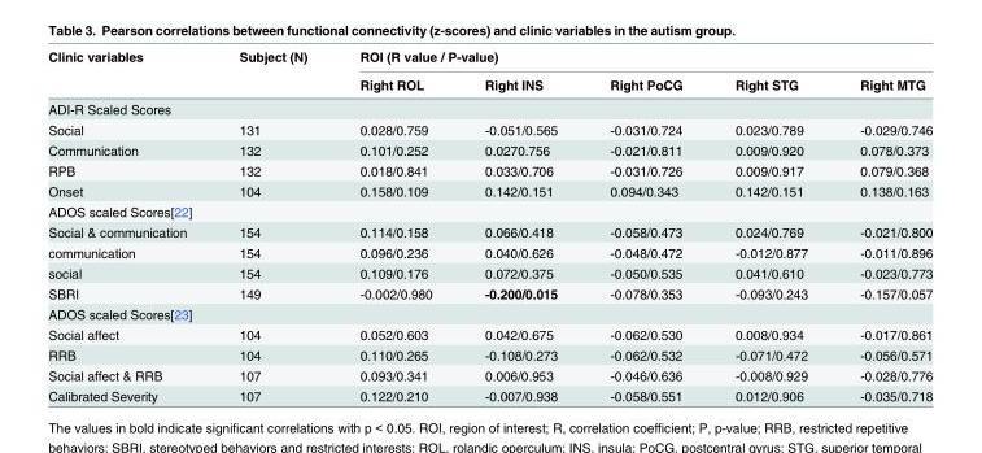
<table><thead><tr><td rowspan="2">Clinic variables</td><td rowspan="2">Subject (N)</td><td colspan="5">ROI (R value / P-value)</td></tr><tr><td>Right ROL</td><td>Right INS</td><td>Right PoCG</td><td>Right STG</td><td>Right MTG</td></tr></thead><tbody><tr><td colspan="7">ADI-R Scaled Scores</td></tr><tr><td>Social</td><td>131</td><td>0.028/0.759</td><td>-0.051/0.565</td><td>-0.031/0.724</td><td>0.023/0.789</td><td>-0.029/0.746</td></tr><tr><td>Communication</td><td>132</td><td>0.101/0.252</td><td>0.0270.756</td><td>-0.021/0.811</td><td>0.009/0.920</td><td>0.078/0.373</td></tr><tr><td>RPB</td><td>132</td><td>0.018/0.841</td><td>0.033/0.706</td><td>-0.031/0.726</td><td>0.009/0.917</td><td>0.079/0.368</td></tr><tr><td>Onset</td><td>104</td><td>0.158/0.109</td><td>0.142/0.151</td><td>0.094/0.343</td><td>0.142/0.151</td><td>0.138/0.163</td></tr><tr><td colspan="7">ADOS scaled Scores[22]</td></tr><tr><td>Social &amp; communication</td><td>154</td><td>0.114/0.158</td><td>0.066/0.418</td><td>-0.058/0.473</td><td>0.024/0.769</td><td>-0.021/0.800</td></tr><tr><td>communication</td><td>154</td><td>0.096/0.236</td><td>0.040/0.626</td><td>-0.048/0.472</td><td>-0.012/0.877</td><td>-0.011/0.896</td></tr><tr><td>social</td><td>154</td><td>0.109/0.176</td><td>0.072/0.375</td><td>-0.050/0.535</td><td>0.041/0.610</td><td>-0.023/0.773</td></tr><tr><td>SBRI</td><td>149</td><td>-0.002/0.980</td><td>-0.200/0.015</td><td>-0.078/0.353</td><td>-0.093/0.243</td><td>-0.157/0.057</td></tr><tr><td colspan="7">ADOS scaled Scores[23]</td></tr><tr><td>Social affect</td><td>104</td><td>0.052/0.603</td><td>0.042/0.675</td><td>-0.062/0.530</td><td>0.008/0.934</td><td>-0.017/0.861</td></tr><tr><td>RRB</td><td>104</td><td>0.110/0.265</td><td>-0.108/0.273</td><td>-0.062/0.532</td><td>-0.071/0.472</td><td>-0.056/0.571</td></tr><tr><td>Social affect &amp; RRB</td><td>107</td><td>0.093/0.341</td><td>0.006/0.953</td><td>-0.046/0.636</td><td>-0.008/0.929</td><td>-0.028/0.776</td></tr><tr><td>Calibrated Severity</td><td>107</td><td>0.122/0.210</td><td>-0.007/0.938</td><td>-0.058/0.551</td><td>0.012/0.906</td><td>-0.035/0.718</td></tr></tbody></table>